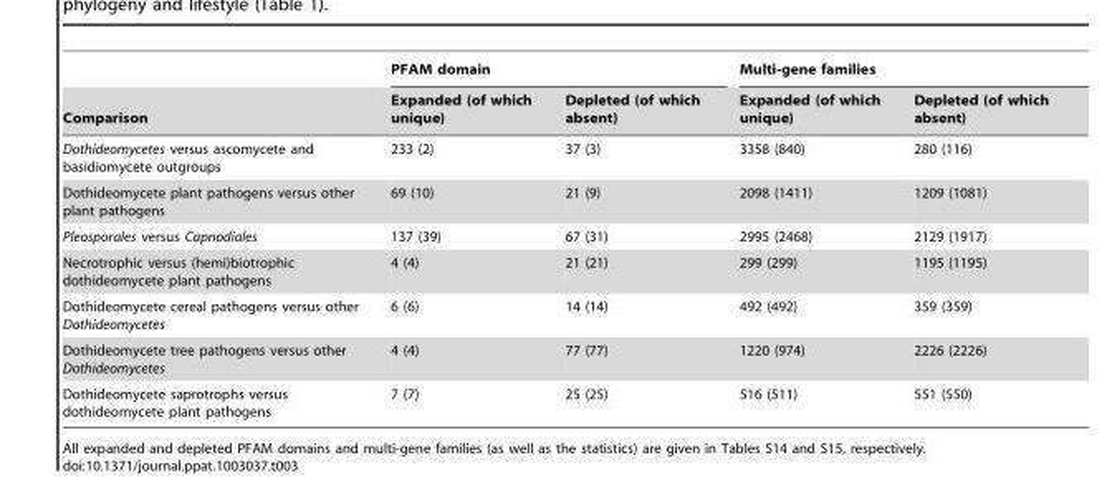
<table><thead><tr><td rowspan="2">Comparison</td><td colspan="2">PFAM domain</td><td colspan="2">Multi-gene families</td></tr><tr><td>Expanded (of which unique)</td><td>Depleted (of which absent)</td><td>Expanded (of which unique)</td><td>Depleted (of which absent)</td></tr></thead><tbody><tr><td>Dothideomycetes versus ascomycete and basidiomycete outgroups</td><td>233 (2)</td><td>37 (3)</td><td>3358 (840)</td><td>280 (116)</td></tr><tr><td>Dothideomycete plant pathogens versus other plant pathogens</td><td>69 (10)</td><td>21 (9)</td><td>2098 (1411)</td><td>1209 (1081)</td></tr><tr><td>Pleosporales versus Capnodiales</td><td>137 (39)</td><td>67 (31)</td><td>2995 (2468)</td><td>2129 (1917)</td></tr><tr><td>Necrotrophic versus (hemi)biotrophic dothideomycete plant pathogens</td><td>4 (4)</td><td>21 (21)</td><td>299 (299)</td><td>1195 (1195)</td></tr><tr><td>Dothideomycete cereal pathogens versus other Dothideomycetes</td><td>6 (6)</td><td>14 (14)</td><td>492 (492)</td><td>359 (359)</td></tr><tr><td>Dothideomycete tree pathogens versus other Dothideomycetes</td><td>4 (4)</td><td>77 (77)</td><td>1220 (974)</td><td>2226 (2226)</td></tr><tr><td>Dothideomycete saprotrophs versus dothideomycete plant pathogens</td><td>7 (7)</td><td>25 (25)</td><td>516 (511)</td><td>551 (550)</td></tr></tbody></table>